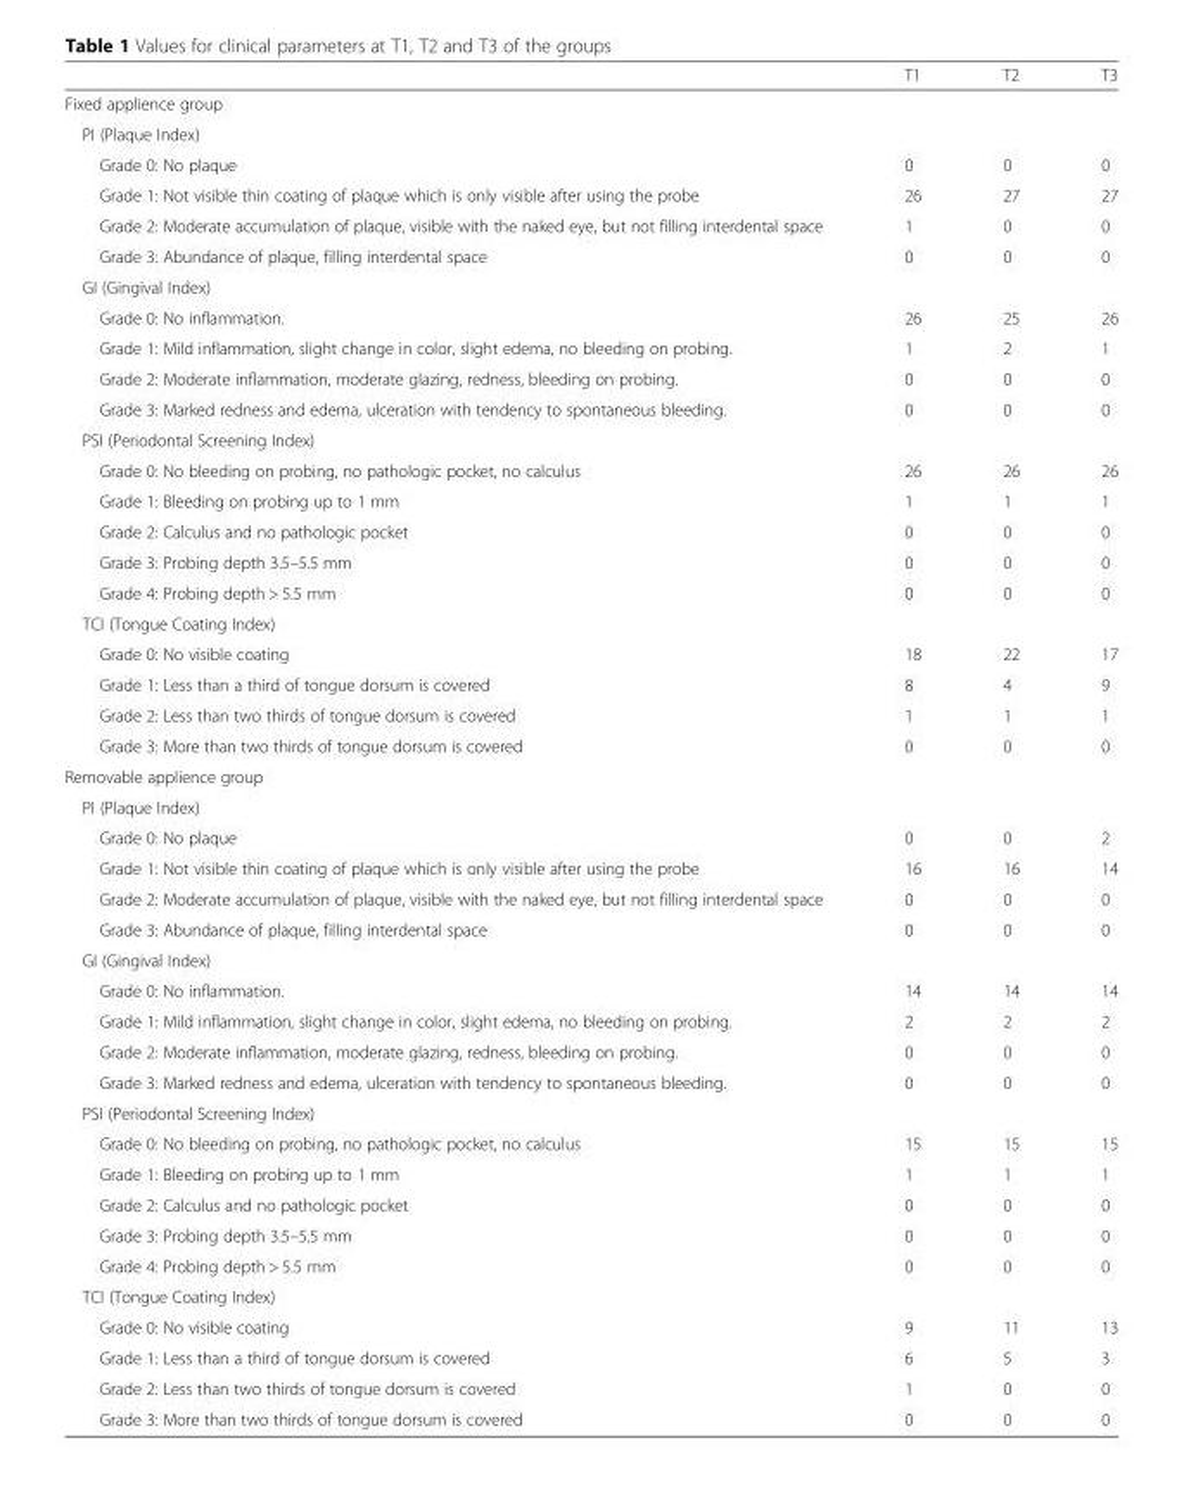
<table><thead><tr><td></td><td>T1</td><td>T2</td><td>T3</td></tr></thead><tbody><tr><td colspan="4">Fixed applience group</td></tr><tr><td colspan="4">PI (Plaque Index)</td></tr><tr><td>Grade 0: No plaque</td><td>0</td><td>0</td><td>0</td></tr><tr><td>Grade 1: Not visible thin coating of plaque which is only visible after using the probe</td><td>26</td><td>27</td><td>27</td></tr><tr><td>Grade 2: Moderate accumulation of plaque, visible with the naked eye, but not filling interdental space</td><td>1</td><td>0</td><td>0</td></tr><tr><td>Grade 3: Abundance of plaque, filling interdental space</td><td>0</td><td>0</td><td>0</td></tr><tr><td colspan="4">GI (Gingival Index)</td></tr><tr><td>Grade 0: No inflammation.</td><td>26</td><td>25</td><td>26</td></tr><tr><td>Grade 1: Mild inflammation, slight change in color, slight edema, no bleeding on probing.</td><td>1</td><td>2</td><td>1</td></tr><tr><td>Grade 2: Moderate inflammation, moderate glazing, redness, bleeding on probing.</td><td>0</td><td>0</td><td>0</td></tr><tr><td>Grade 3: Marked redness and edema, ulceration with tendency to spontaneous bleeding.</td><td>0</td><td>0</td><td>0</td></tr><tr><td colspan="4">PSI (Periodontal Screening Index)</td></tr><tr><td>Grade 0: No bleeding on probing, no pathologic pocket, no calculus</td><td>26</td><td>26</td><td>26</td></tr><tr><td>Grade 1: Bleeding on probing up to 1 mm</td><td>1</td><td>1</td><td>1</td></tr><tr><td>Grade 2: Calculus and no pathologic pocket</td><td>0</td><td>0</td><td>0</td></tr><tr><td>Grade 3: Probing depth 3.5–5.5 mm</td><td>0</td><td>0</td><td>0</td></tr><tr><td>Grade 4: Probing depth &gt; 5.5 mm</td><td>0</td><td>0</td><td>0</td></tr><tr><td colspan="4">TCI (Tongue Coating Index)</td></tr><tr><td>Grade 0: No visible coating</td><td>18</td><td>22</td><td>17</td></tr><tr><td>Grade 1: Less than a third of tongue dorsum is covered</td><td>8</td><td>4</td><td>9</td></tr><tr><td>Grade 2: Less than two thirds of tongue dorsum is covered</td><td>1</td><td>1</td><td>1</td></tr><tr><td>Grade 3: More than two thirds of tongue dorsum is covered</td><td>0</td><td>0</td><td>0</td></tr><tr><td colspan="4">Removable applience group</td></tr><tr><td colspan="4">PI (Plaque Index)</td></tr><tr><td>Grade 0: No plaque</td><td>0</td><td>0</td><td>2</td></tr><tr><td>Grade 1: Not visible thin coating of plaque which is only visible after using the probe</td><td>16</td><td>16</td><td>14</td></tr><tr><td>Grade 2: Moderate accumulation of plaque, visible with the naked eye, but not filling interdental space</td><td>0</td><td>0</td><td>0</td></tr><tr><td>Grade 3: Abundance of plaque, filling interdental space</td><td>0</td><td>0</td><td>0</td></tr><tr><td colspan="4">GI (Gingival Index)</td></tr><tr><td>Grade 0: No inflammation.</td><td>14</td><td>14</td><td>14</td></tr><tr><td>Grade 1: Mild inflammation, slight change in color, slight edema, no bleeding on probing.</td><td>2</td><td>2</td><td>2</td></tr><tr><td>Grade 2: Moderate inflammation, moderate glazing, redness, bleeding on probing.</td><td>0</td><td>0</td><td>0</td></tr><tr><td>Grade 3: Marked redness and edema, ulceration with tendency to spontaneous bleeding.</td><td>0</td><td>0</td><td>0</td></tr><tr><td colspan="4">PSI (Periodontal Screening Index)</td></tr><tr><td>Grade 0: No bleeding on probing, no pathologic pocket, no calculus</td><td>15</td><td>15</td><td>15</td></tr><tr><td>Grade 1: Bleeding on probing up to 1 mm</td><td>1</td><td>1</td><td>1</td></tr><tr><td>Grade 2: Calculus and no pathologic pocket</td><td>0</td><td>0</td><td>0</td></tr><tr><td>Grade 3: Probing depth 3.5–5.5 mm</td><td>0</td><td>0</td><td>0</td></tr><tr><td>Grade 4: Probing depth &gt; 5.5 mm</td><td>0</td><td>0</td><td>0</td></tr><tr><td colspan="4">TCI (Tongue Coating Index)</td></tr><tr><td>Grade 0: No visible coating</td><td>9</td><td>11</td><td>13</td></tr><tr><td>Grade 1: Less than a third of tongue dorsum is covered</td><td>6</td><td>5</td><td>3</td></tr><tr><td>Grade 2: Less than two thirds of tongue dorsum is covered</td><td>1</td><td>0</td><td>0</td></tr><tr><td>Grade 3: More than two thirds of tongue dorsum is covered</td><td>0</td><td>0</td><td>0</td></tr></tbody></table>